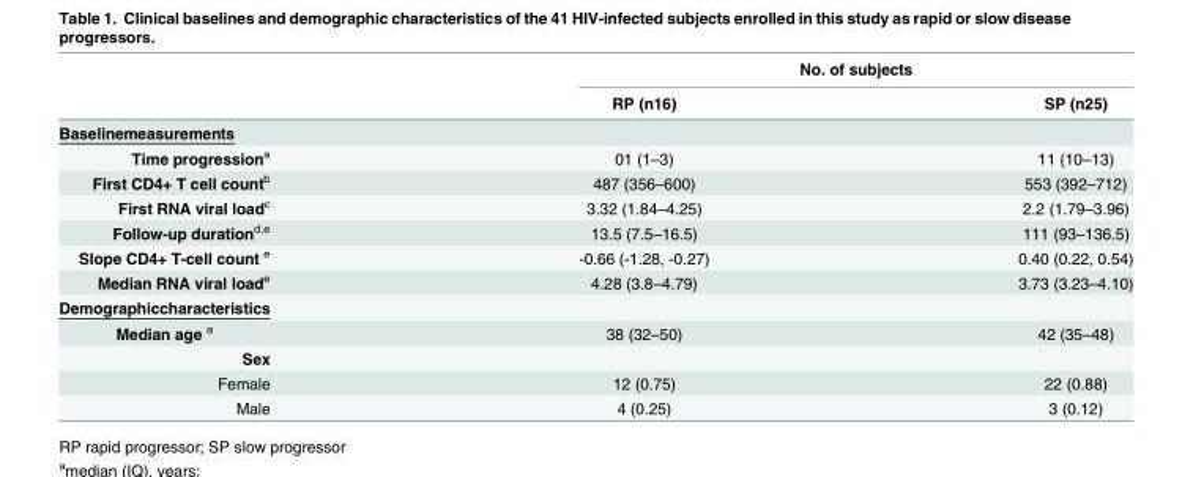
<table><thead><tr><td rowspan="2"></td><td colspan="2">No. of subjects</td></tr><tr><td>RP (n16)</td><td>SP (n25)</td></tr></thead><tbody><tr><td colspan="3">Baselinemeasurements</td></tr><tr><td>Time progression<sup>a</sup></td><td>01 (1–3)</td><td>11 (10–13)</td></tr><tr><td>First CD4+ T cell count<sup>b</sup></td><td>487 (356–600)</td><td>553 (392–712)</td></tr><tr><td>First RNA viral load<sup>c</sup></td><td>3.32 (1.84–4.25)</td><td>2.2 (1.79–3.96)</td></tr><tr><td>Follow-up duration<sup>d,e</sup></td><td>13.5 (7.5–16.5)</td><td>111 (93–136.5)</td></tr><tr><td>Slope CD4+ T-cell count <sup>e</sup></td><td>-0.66 (-1.28, -0.27)</td><td>0.40 (0.22, 0.54)</td></tr><tr><td>Median RNA viral load<sup>e</sup></td><td>4.28 (3.8–4.79)</td><td>3.73 (3.23–4.10)</td></tr><tr><td colspan="3">Demographiccharacteristics</td></tr><tr><td>Median age <sup>a</sup></td><td>38 (32–50)</td><td>42 (35–48)</td></tr><tr><td colspan="3">Sex</td></tr><tr><td>Female</td><td>12 (0.75)</td><td>22 (0.88)</td></tr><tr><td>Male</td><td>4 (0.25)</td><td>3 (0.12)</td></tr></tbody></table>